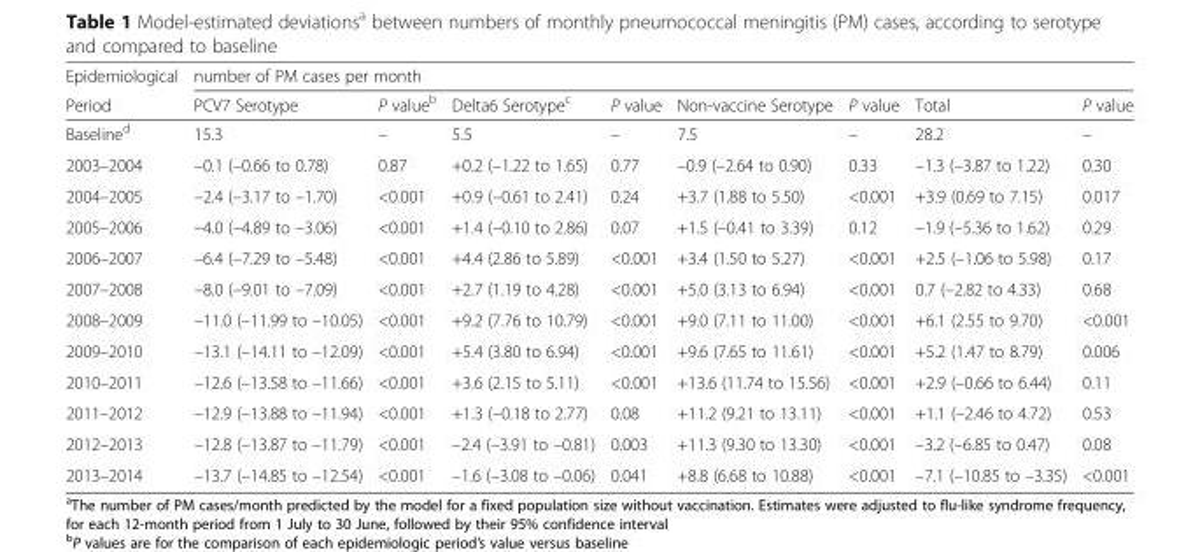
<table><thead><tr><td rowspan="2">Epidemiological Period</td><td colspan="8">number of PM cases per month</td></tr><tr><td>PCV7 Serotype</td><td>P value<sup>b</sup></td><td>Delta6 Serotype<sup>c</sup></td><td>P value</td><td>Non-vaccine Serotype</td><td>P value</td><td>Total</td><td>P value</td></tr></thead><tbody><tr><td>Baseline<sup>d</sup></td><td>15.3</td><td>–</td><td>5.5</td><td>–</td><td>7.5</td><td>–</td><td>28.2</td><td>–</td></tr><tr><td>2003–2004</td><td>–0.1 (–0.66 to 0.78)</td><td>0.87</td><td>+0.2 (–1.22 to 1.65)</td><td>0.77</td><td>–0.9 (–2.64 to 0.90)</td><td>0.33</td><td>–1.3 (–3.87 to 1.22)</td><td>0.30</td></tr><tr><td>2004–2005</td><td>–2.4 (–3.17 to –1.70)</td><td>&lt;0.001</td><td>+0.9 (–0.61 to 2.41)</td><td>0.24</td><td>+3.7 (1.88 to 5.50)</td><td>&lt;0.001</td><td>+3.9 (0.69 to 7.15)</td><td>0.017</td></tr><tr><td>2005–2006</td><td>–4.0 (–4.89 to –3.06)</td><td>&lt;0.001</td><td>+1.4 (–0.10 to 2.86)</td><td>0.07</td><td>+1.5 (–0.41 to 3.39)</td><td>0.12</td><td>–1.9 (–5.36 to 1.62)</td><td>0.29</td></tr><tr><td>2006–2007</td><td>–6.4 (–7.29 to –5.48)</td><td>&lt;0.001</td><td>+4.4 (2.86 to 5.89)</td><td>&lt;0.001</td><td>+3.4 (1.50 to 5.27)</td><td>&lt;0.001</td><td>+2.5 (–1.06 to 5.98)</td><td>0.17</td></tr><tr><td>2007–2008</td><td>–8.0 (–9.01 to –7.09)</td><td>&lt;0.001</td><td>+2.7 (1.19 to 4.28)</td><td>&lt;0.001</td><td>+5.0 (3.13 to 6.94)</td><td>&lt;0.001</td><td>0.7 (–2.82 to 4.33)</td><td>0.68</td></tr><tr><td>2008–2009</td><td>–11.0 (–11.99 to –10.05)</td><td>&lt;0.001</td><td>+9.2 (7.76 to 10.79)</td><td>&lt;0.001</td><td>+9.0 (7.11 to 11.00)</td><td>&lt;0.001</td><td>+6.1 (2.55 to 9.70)</td><td>&lt;0.001</td></tr><tr><td>2009–2010</td><td>–13.1 (–14.11 to –12.09)</td><td>&lt;0.001</td><td>+5.4 (3.80 to 6.94)</td><td>&lt;0.001</td><td>+9.6 (7.65 to 11.61)</td><td>&lt;0.001</td><td>+5.2 (1.47 to 8.79)</td><td>0.006</td></tr><tr><td>2010–2011</td><td>–12.6 (–13.58 to –11.66)</td><td>&lt;0.001</td><td>+3.6 (2.15 to 5.11)</td><td>&lt;0.001</td><td>+13.6 (11.74 to 15.56)</td><td>&lt;0.001</td><td>+2.9 (–0.66 to 6.44)</td><td>0.11</td></tr><tr><td>2011–2012</td><td>–12.9 (–13.88 to –11.94)</td><td>&lt;0.001</td><td>+1.3 (–0.18 to 2.77)</td><td>0.08</td><td>+11.2 (9.21 to 13.11)</td><td>&lt;0.001</td><td>+1.1 (–2.46 to 4.72)</td><td>0.53</td></tr><tr><td>2012–2013</td><td>–12.8 (–13.87 to –11.79)</td><td>&lt;0.001</td><td>–2.4 (–3.91 to –0.81)</td><td>0.003</td><td>+11.3 (9.30 to 13.30)</td><td>&lt;0.001</td><td>–3.2 (–6.85 to 0.47)</td><td>0.08</td></tr><tr><td>2013–2014</td><td>–13.7 (–14.85 to –12.54)</td><td>&lt;0.001</td><td>–1.6 (–3.08 to –0.06)</td><td>0.041</td><td>+8.8 (6.68 to 10.88)</td><td>&lt;0.001</td><td>–7.1 (–10.85 to –3.35)</td><td>&lt;0.001</td></tr></tbody></table>